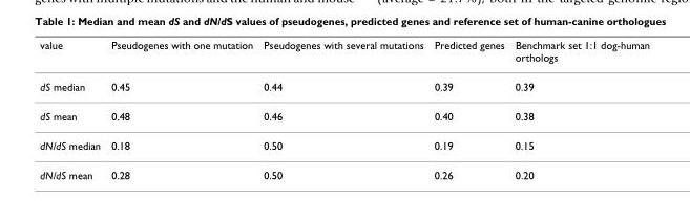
<table><thead><tr><td>value</td><td>Pseudogenes with one mutation</td><td>Pseudogenes with several mutations</td><td>Predicted genes</td><td>Benchmark set 1:1 dog-human orthologs</td></tr></thead><tbody><tr><td>dS median</td><td>0.45</td><td>0.44</td><td>0.39</td><td>0.39</td></tr><tr><td>dS mean</td><td>0.48</td><td>0.46</td><td>0.40</td><td>0.38</td></tr><tr><td>dN/dS median</td><td>0.18</td><td>0.50</td><td>0.19</td><td>0.15</td></tr><tr><td>dN/dS mean</td><td>0.28</td><td>0.50</td><td>0.26</td><td>0.20</td></tr></tbody></table>